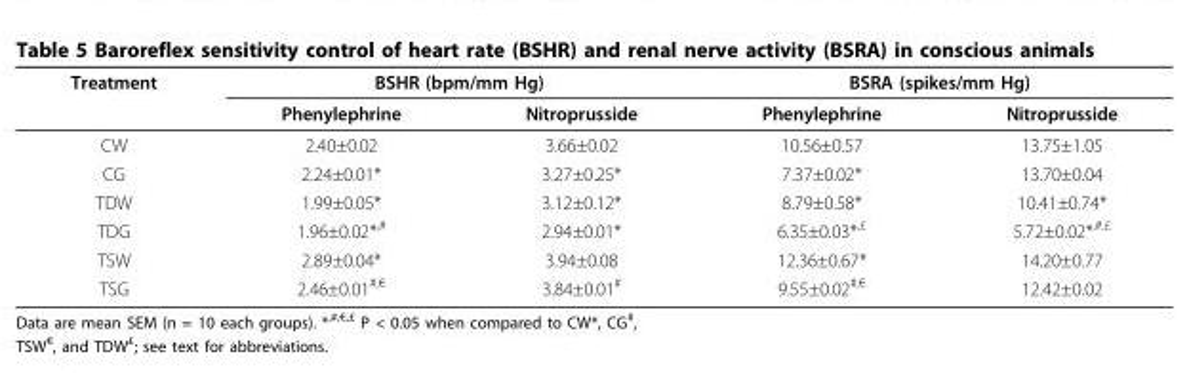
<table><thead><tr><td rowspan="2">Treatment</td><td colspan="2">BSHR (bpm/mm Hg)</td><td colspan="2">BSRA (spikes/mm Hg)</td></tr><tr><td>Phenylephrine</td><td>Nitroprusside</td><td>Phenylephrine</td><td>Nitroprusside</td></tr></thead><tbody><tr><td>CW</td><td>2.40±0.02</td><td>3.66±0.02</td><td>10.56±0.57</td><td>13.75±1.05</td></tr><tr><td>CG</td><td>2.24±0.01*</td><td>3.27±0.25*</td><td>7.37±0.02*</td><td>13.70±0.04</td></tr><tr><td>TDW</td><td>1.99±0.05*</td><td>3.12±0.12*</td><td>8.79±0.58*</td><td>10.41±0.74*</td></tr><tr><td>TDG</td><td>1.96±0.02*<sup>,#</sup></td><td>2.94±0.01*</td><td>6.35±0.03*<sup>,£</sup></td><td>5.72±0.02*<sup>,#,£</sup></td></tr><tr><td>TSW</td><td>2.89±0.04*</td><td>3.94±0.08</td><td>12.36±0.67*</td><td>14.20±0.77</td></tr><tr><td>TSG</td><td>2.46±0.01<sup>#,€</sup></td><td>3.84±0.01<sup>#</sup></td><td>9.55±0.02<sup>#,€</sup></td><td>12.42±0.02</td></tr></tbody></table>